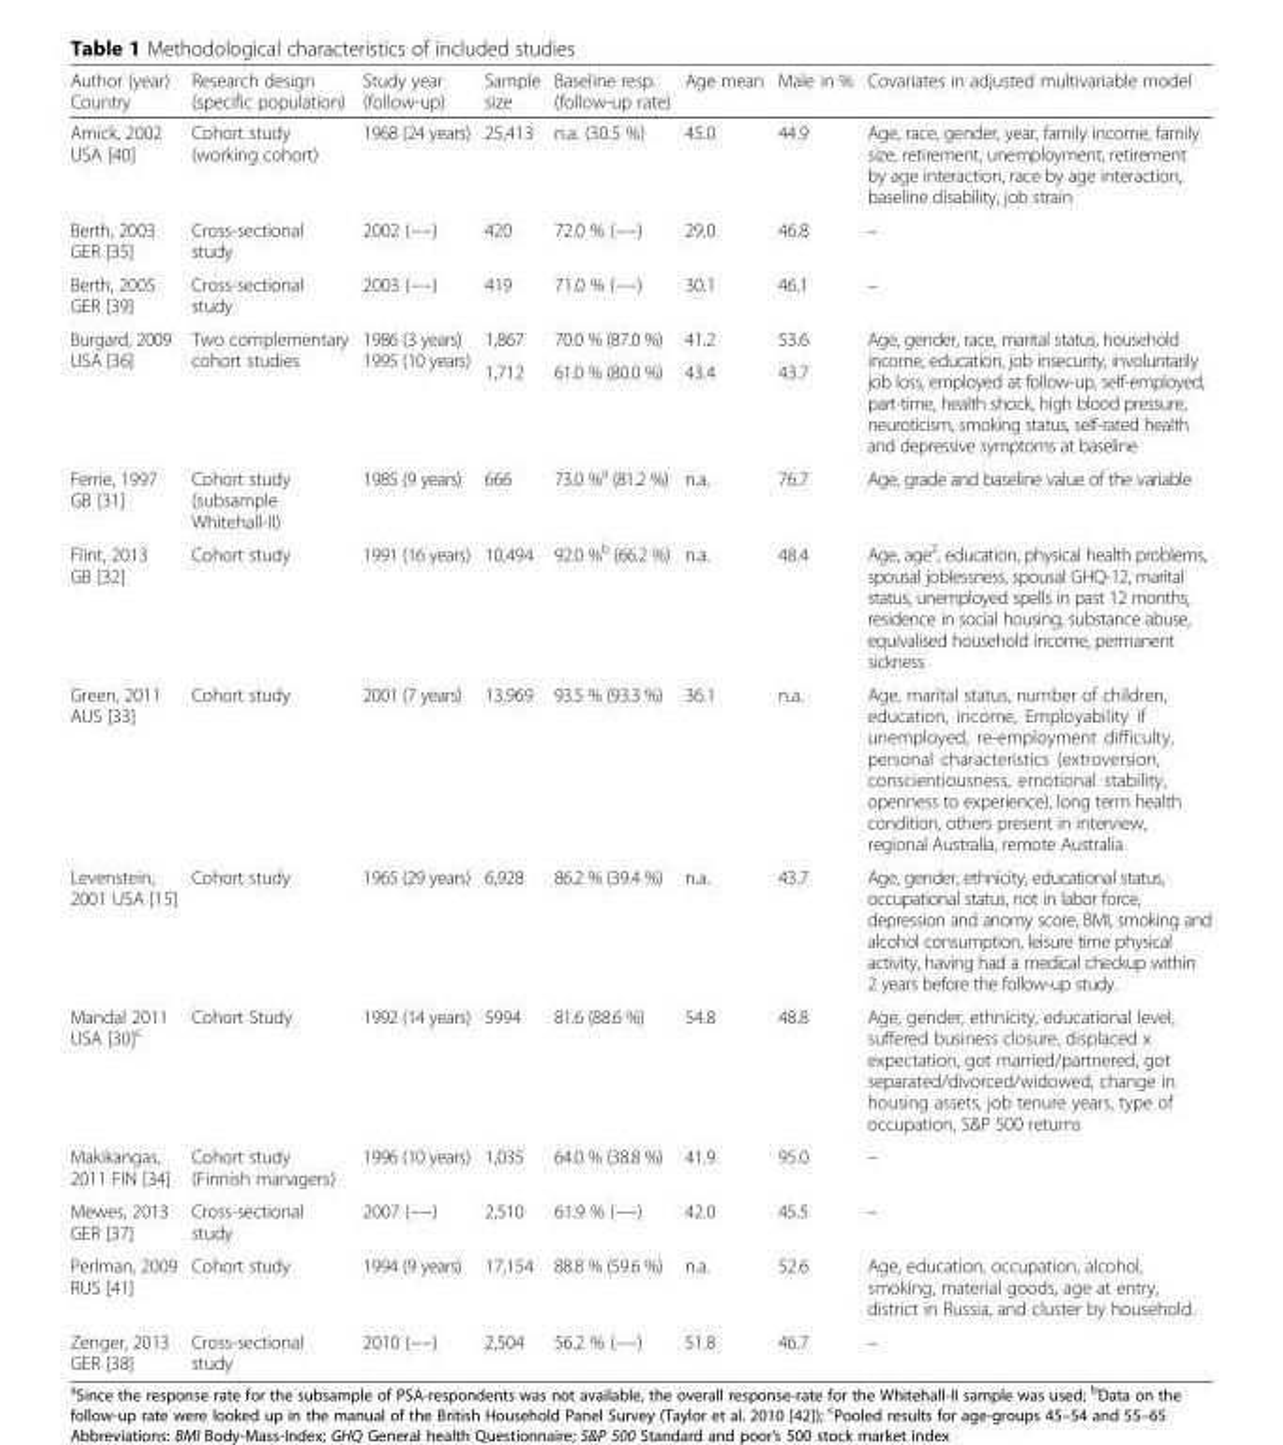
<table><thead><tr><td>Author (year) Country</td><td>Research design (specific population)</td><td>Study year (follow-up)</td><td>Sample size</td><td>Baseline resp. (follow-up rate)</td><td>Age mean</td><td>Male in %</td><td>Covariates in adjusted multivariable model</td></tr></thead><tbody><tr><td>Amick, 2002 USA [40]</td><td>Cohort study (working cohort)</td><td>1968 (24 years)</td><td>25,413</td><td>n.a. (30.5 %)</td><td>45.0</td><td>44.9</td><td>Age, race, gender, year, family income, family size, retirement, unemployment, retirement by age interaction, race by age interaction, baseline disability, job strain</td></tr><tr><td>Berth, 2003 GER [35]</td><td>Cross-sectional study</td><td>2002 (−−)</td><td>420</td><td>72.0 % (−−)</td><td>29.0</td><td>46.8</td><td>–</td></tr><tr><td>Berth, 2005 GER [39]</td><td>Cross-sectional study</td><td>2003 (−−)</td><td>419</td><td>71.0 % (−−)</td><td>30.1</td><td>46.1</td><td>–</td></tr><tr><td rowspan="2">Burgard, 2009 USA [36]</td><td rowspan="2">Two complementary cohort studies</td><td rowspan="2">1986 (3 years) 1995 (10 years)</td><td>1,867</td><td>70.0 % (87.0 %)</td><td>41.2</td><td>53.6</td><td rowspan="2">Age, gender, race, marital status, household income, education, job insecurity, involuntarily job loss, employed at follow-up, self-employed, part-time, health shock, high blood pressure, neuroticism, smoking status, self-rated health and depressive symptoms at baseline</td></tr><tr><td>1,712</td><td>61.0 % (80.0 %)</td><td>43.4</td><td>43.7</td></tr><tr><td>Ferrie, 1997 GB [31]</td><td>Cohort study (subsample Whitehall-II)</td><td>1985 (9 years)</td><td>666</td><td>73.0 %<sup>a</sup> (81.2 %)</td><td>n.a.</td><td>76.7</td><td>Age, grade and baseline value of the variable</td></tr><tr><td>Flint, 2013 GB [32]</td><td>Cohort study</td><td>1991 (16 years)</td><td>10,494</td><td>92.0 %<sup>b</sup> (66.2 %)</td><td>n.a.</td><td>48.4</td><td>Age, age<sup>2</sup>, education, physical health problems, spousal joblessness, spousal GHQ-12, marital status, unemployed spells in past 12 months, residence in social housing, substance abuse, equivalised household income, permanent sickness</td></tr><tr><td>Green, 2011 AUS [33]</td><td>Cohort study</td><td>2001 (7 years)</td><td>13,969</td><td>93.5 % (93.3 %)</td><td>36.1</td><td>n.a.</td><td>Age, marital status, number of children, education, income, Employability if unemployed, re-employment difficulty, personal characteristics (extroversion, conscientiousness, emotional stability, openness to experience), long term health condition, others present in interview, regional Australia, remote Australia</td></tr><tr><td>Levenstein, 2001 USA [15]</td><td>Cohort study</td><td>1965 (29 years)</td><td>6,928</td><td>86.2 % (39.4 %)</td><td>n.a.</td><td>43.7</td><td>Age, gender, ethnicity, educational status, occupational status, not in labor force, depression and anomy score, BMI, smoking and alcohol consumption, leisure time physical activity, having had a medical checkup within 2 years before the follow-up study.</td></tr><tr><td>Mandal 2011 USA [30]<sup>c</sup></td><td>Cohort Study</td><td>1992 (14 years)</td><td>5994</td><td>81.6 (88.6 %)</td><td>54.8</td><td>48.8</td><td>Age, gender, ethnicity, educational level, suffered business closure, displaced x expectation, got married/partnered, got separated/divorced/widowed, change in housing assets, job tenure years, type of occupation, S&amp;P 500 returns</td></tr><tr><td>Makikangas, 2011 FIN [34]</td><td>Cohort study (Finnish managers)</td><td>1996 (10 years)</td><td>1,035</td><td>64.0 % (38.8 %)</td><td>41.9</td><td>95.0</td><td>–</td></tr><tr><td>Mewes, 2013 GER [37]</td><td>Cross-sectional study</td><td>2007 (−−)</td><td>2,510</td><td>61.9 % (−−)</td><td>42.0</td><td>45.5</td><td>–</td></tr><tr><td>Perlman, 2009 RUS [41]</td><td>Cohort study</td><td>1994 (9 years)</td><td>17,154</td><td>88.8 % (59.6 %)</td><td>n.a.</td><td>52.6</td><td>Age, education, occupation, alcohol, smoking, material goods, age at entry, district in Russia, and cluster by household.</td></tr><tr><td>Zenger, 2013 GER [38]</td><td>Cross-sectional study</td><td>2010 (−−)</td><td>2,504</td><td>56.2 % (−−)</td><td>51.8</td><td>46.7</td><td>–</td></tr></tbody></table>